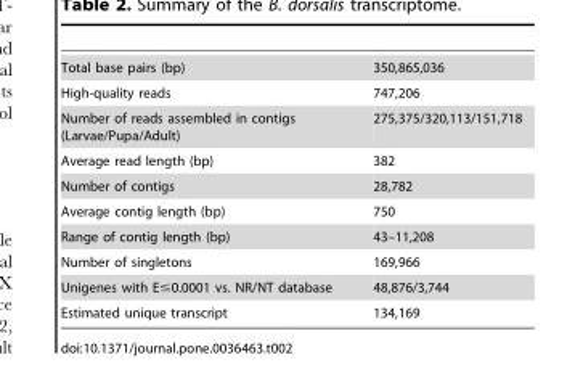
<table><tbody><tr><td>Total base pairs (bp)</td><td>350,865,036</td></tr><tr><td>High-quality reads</td><td>747,206</td></tr><tr><td>Number of reads assembled in contigs (Larvae/Pupa/Adult)</td><td>275,375/320,113/151,718</td></tr><tr><td>Average read length (bp)</td><td>382</td></tr><tr><td>Number of contigs</td><td>28,782</td></tr><tr><td>Average contig length (bp)</td><td>750</td></tr><tr><td>Range of contig length (bp)</td><td>43–11,208</td></tr><tr><td>Number of singletons</td><td>169,966</td></tr><tr><td>Unigenes with E≤0.0001 vs. NR/NT database</td><td>48,876/3,744</td></tr><tr><td>Estimated unique transcript</td><td>134,169</td></tr></tbody></table>